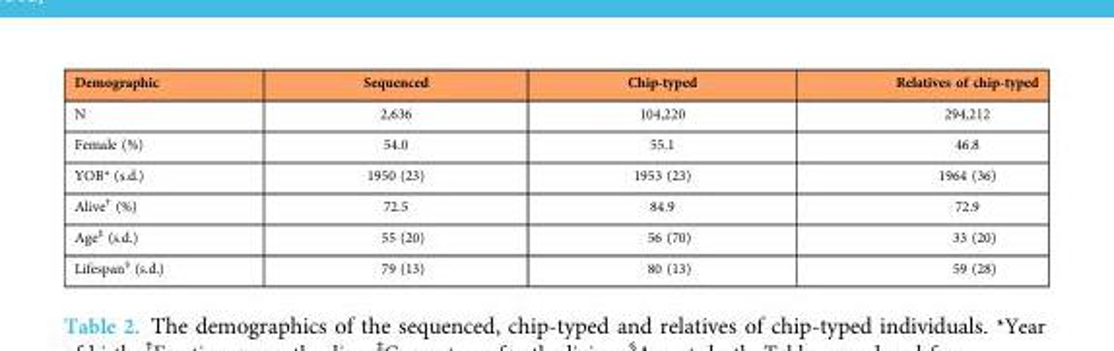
<table><thead><tr><td>Demographic</td><td>Sequenced</td><td>Chip-typed</td><td>Relatives of chip-typed</td></tr></thead><tbody><tr><td>N</td><td>2,636</td><td>104,220</td><td>294,212</td></tr><tr><td>Female (%)</td><td>54.0</td><td>55.1</td><td>46.8</td></tr><tr><td>YOB* (s.d.)</td><td>1950 (23)</td><td>1953 (23)</td><td>1964 (36)</td></tr><tr><td>Alive† (%)</td><td>72.5</td><td>84.9</td><td>72.9</td></tr><tr><td>Age‡ (s.d.)</td><td>55 (20)</td><td>56 (70)</td><td>33 (20)</td></tr><tr><td>Lifespan§ (s.d.)</td><td>79 (13)</td><td>80 (13)</td><td>59 (28)</td></tr></tbody></table>